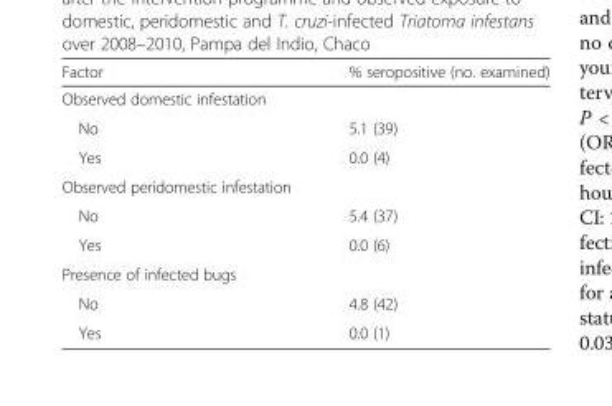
<table><thead><tr><td>Factor</td><td>% seropositive (no. examined)</td></tr></thead><tbody><tr><td colspan="2">Observed domestic infestation</td></tr><tr><td>No</td><td>5.1 (39)</td></tr><tr><td>Yes</td><td>0.0 (4)</td></tr><tr><td colspan="2">Observed peridomestic infestation</td></tr><tr><td>No</td><td>5.4 (37)</td></tr><tr><td>Yes</td><td>0.0 (6)</td></tr><tr><td colspan="2">Presence of infected bugs</td></tr><tr><td>No</td><td>4.8 (42)</td></tr><tr><td>Yes</td><td>0.0 (1)</td></tr></tbody></table>